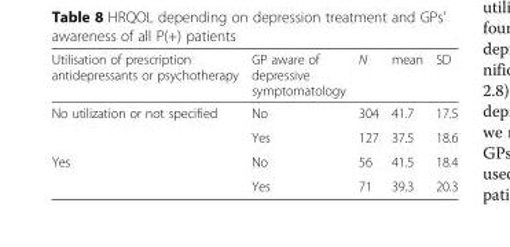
<table><thead><tr><td>Utilisation of prescription antidepressants or psychotherapy</td><td>GP aware of depressive symptomatology</td><td>N</td><td>mean</td><td>SD</td></tr></thead><tbody><tr><td rowspan="2">No utilization or not specified</td><td>No</td><td>304</td><td>41.7</td><td>17.5</td></tr><tr><td>Yes</td><td>127</td><td>37.5</td><td>18.6</td></tr><tr><td rowspan="2">Yes</td><td>No</td><td>56</td><td>41.5</td><td>18.4</td></tr><tr><td>Yes</td><td>71</td><td>39.3</td><td>20.3</td></tr></tbody></table>